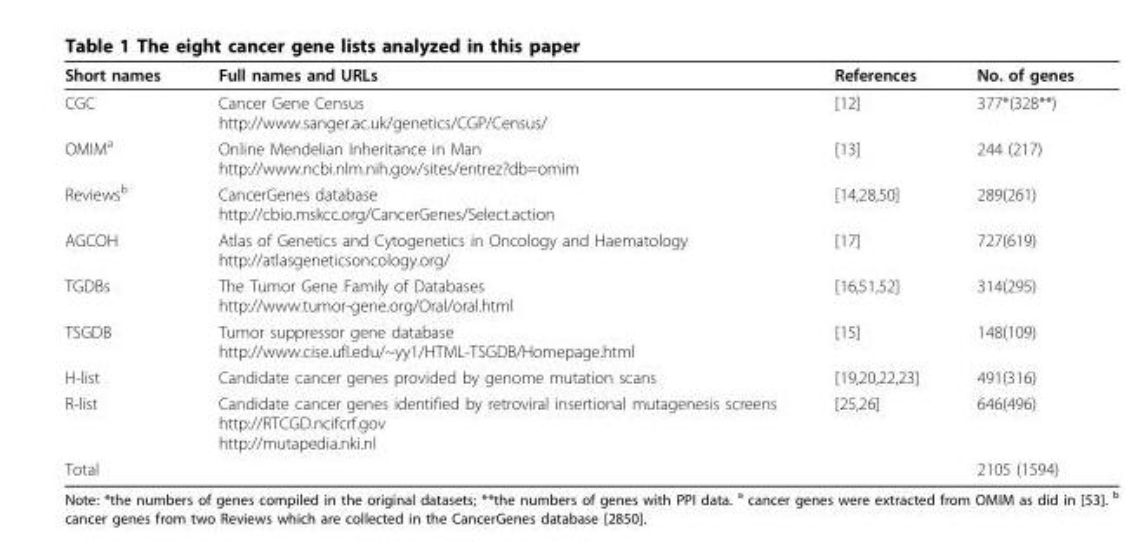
<table><thead><tr><td>Short names</td><td>Full names and URLs</td><td>References</td><td>No. of genes</td></tr></thead><tbody><tr><td>CGC</td><td>Cancer Gene Census http://www.sanger.ac.uk/genetics/CGP/Census/</td><td>[12]</td><td>377*(328**)</td></tr><tr><td>OMIM<sup>a</sup></td><td>Online Mendelian Inheritance in Man http://www.ncbi.nlm.nih.gov/sites/entrez?db=omim</td><td>[13]</td><td>244 (217)</td></tr><tr><td>Reviews<sup>b</sup></td><td>CancerGenes database http://cbio.mskcc.org/CancerGenes/Select.action</td><td>[14,28,50]</td><td>289(261)</td></tr><tr><td>AGCOH</td><td>Atlas of Genetics and Cytogenetics in Oncology and Haematology http://atlasgeneticsoncology.org/</td><td>[17]</td><td>727(619)</td></tr><tr><td>TGDBs</td><td>The Tumor Gene Family of Databases http://www.tumor-gene.org/Oral/oral.html</td><td>[16,51,52]</td><td>314(295)</td></tr><tr><td>TSGDB</td><td>Tumor suppressor gene database http://www.cise.ufl.edu/~yy1/HTML-TSGDB/Homepage.html</td><td>[15]</td><td>148(109)</td></tr><tr><td>H-list</td><td>Candidate cancer genes provided by genome mutation scans</td><td>[19,20,22,23]</td><td>491(316)</td></tr><tr><td>R-list</td><td>Candidate cancer genes identified by retroviral insertional mutagenesis screens http://RTCGD.ncifcrf.gov http://mutapedia.nki.nl</td><td>[25,26]</td><td>646(496)</td></tr><tr><td>Total</td><td></td><td></td><td>2105 (1594)</td></tr></tbody></table>